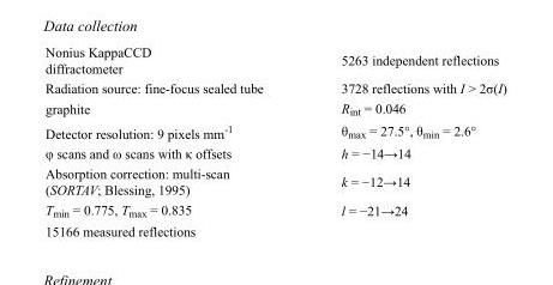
<table><tbody><tr><td>Nonius KappaCCD diffractometer</td><td>5263 independent reflections</td></tr><tr><td>Radiation source: fine-focus sealed tube</td><td>3728 reflections with I &gt; 2σ(I)</td></tr><tr><td>graphite</td><td>R<sub>int</sub> = 0.046</td></tr><tr><td>Detector resolution: 9 pixels mm<sup>-1</sup></td><td>θ<sub>max</sub> = 27.5°, θ<sub>min</sub> = 2.6°</td></tr><tr><td>φ scans and ω scans with κ offsets</td><td>h = −14→14</td></tr><tr><td>Absorption correction: multi-scan (SORTAV; Blessing, 1995)</td><td>k = −12→14</td></tr><tr><td>T<sub>min</sub> = 0.775, T<sub>max</sub> = 0.835</td><td>l = −21→24</td></tr><tr><td>15166 measured reflections</td><td></td></tr></tbody></table>